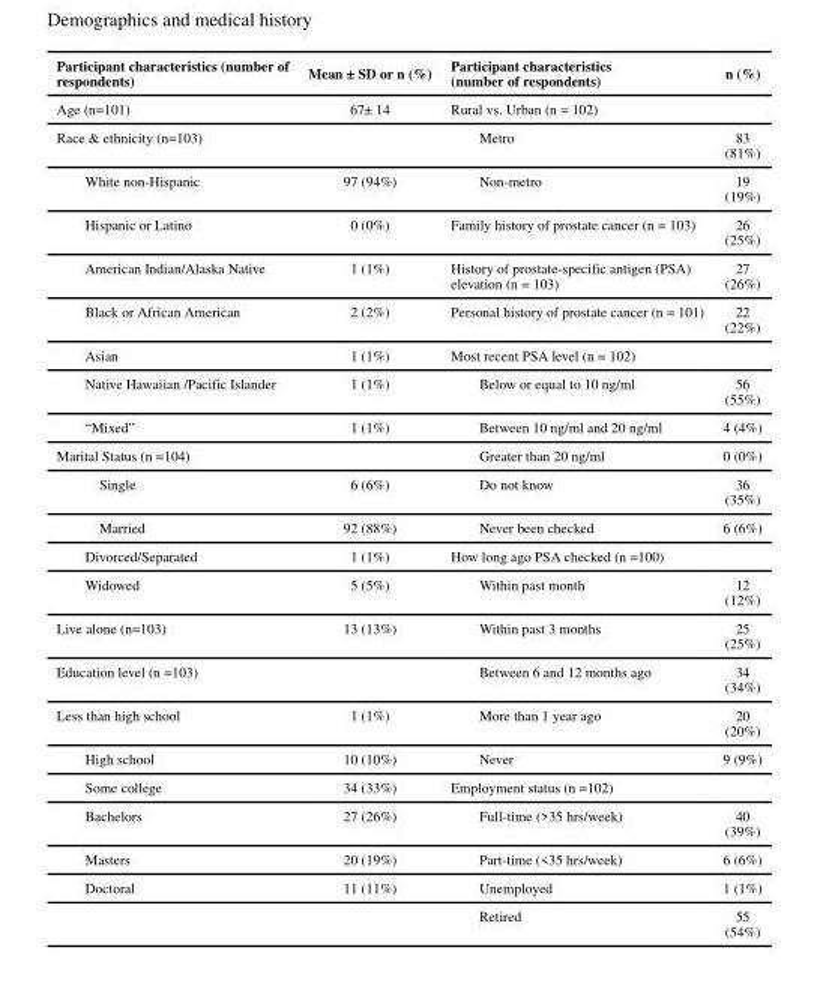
<table><thead><tr><td>Participant characteristics (number of respondents)</td><td>Mean ± SD or n (%)</td><td>Participant characteristics (number of respondents)</td><td>n (%)</td></tr></thead><tbody><tr><td>Age (n=101)</td><td>67± 14</td><td>Rural vs. Urban (n = 102)</td><td></td></tr><tr><td>Race &amp; ethnicity (n=103)</td><td></td><td>Metro</td><td>83 (81%)</td></tr><tr><td>White non-Hispanic</td><td>97 (94%)</td><td>Non-metro</td><td>19 (19%)</td></tr><tr><td>Hispanic or Latino</td><td>0 (0%)</td><td>Family history of prostate cancer (n = 103)</td><td>26 (25%)</td></tr><tr><td>American Indian/Alaska Native</td><td>1 (1%)</td><td>History of prostate-specific antigen (PSA) elevation (n = 103)</td><td>27 (26%)</td></tr><tr><td>Black or African American</td><td>2 (2%)</td><td>Personal history of prostate cancer (n = 101)</td><td>22 (22%)</td></tr><tr><td>Asian</td><td>1 (1%)</td><td>Most recent PSA level (n = 102)</td><td></td></tr><tr><td>Native Hawaiian /Pacific Islander</td><td>1 (1%)</td><td>Below or equal to 10 ng/ml</td><td>56 (55%)</td></tr><tr><td>“Mixed”</td><td>1 (1%)</td><td>Between 10 ng/ml and 20 ng/ml</td><td>4 (4%)</td></tr><tr><td>Marital Status (n =104)</td><td></td><td>Greater than 20 ng/ml</td><td>0 (0%)</td></tr><tr><td>Single</td><td>6 (6%)</td><td>Do not know</td><td>36 (35%)</td></tr><tr><td>Married</td><td>92 (88%)</td><td>Never been checked</td><td>6 (6%)</td></tr><tr><td>Divorced/Separated</td><td>1 (1%)</td><td>How long ago PSA checked (n =100)</td><td></td></tr><tr><td>Widowed</td><td>5 (5%)</td><td>Within past month</td><td>12 (12%)</td></tr><tr><td>Live alone (n=103)</td><td>13 (13%)</td><td>Within past 3 months</td><td>25 (25%)</td></tr><tr><td>Education level (n =103)</td><td></td><td>Between 6 and 12 months ago</td><td>34 (34%)</td></tr><tr><td>Less than high school</td><td>1 (1%)</td><td>More than 1 year ago</td><td>20 (20%)</td></tr><tr><td>High school</td><td>10 (10%)</td><td>Never</td><td>9 (9%)</td></tr><tr><td>Some college</td><td>34 (33%)</td><td>Employment status (n =102)</td><td></td></tr><tr><td>Bachelors</td><td>27 (26%)</td><td>Full-time (&gt;35 hrs/week)</td><td>40 (39%)</td></tr><tr><td>Masters</td><td>20 (19%)</td><td>Part-time (&lt;35 hrs/week)</td><td>6 (6%)</td></tr><tr><td rowspan="2">Doctoral</td><td>11 (11%)</td><td>Unemployed</td><td>1 (1%)</td></tr><tr><td></td><td>Retired</td><td>55 (54%)</td></tr></tbody></table>